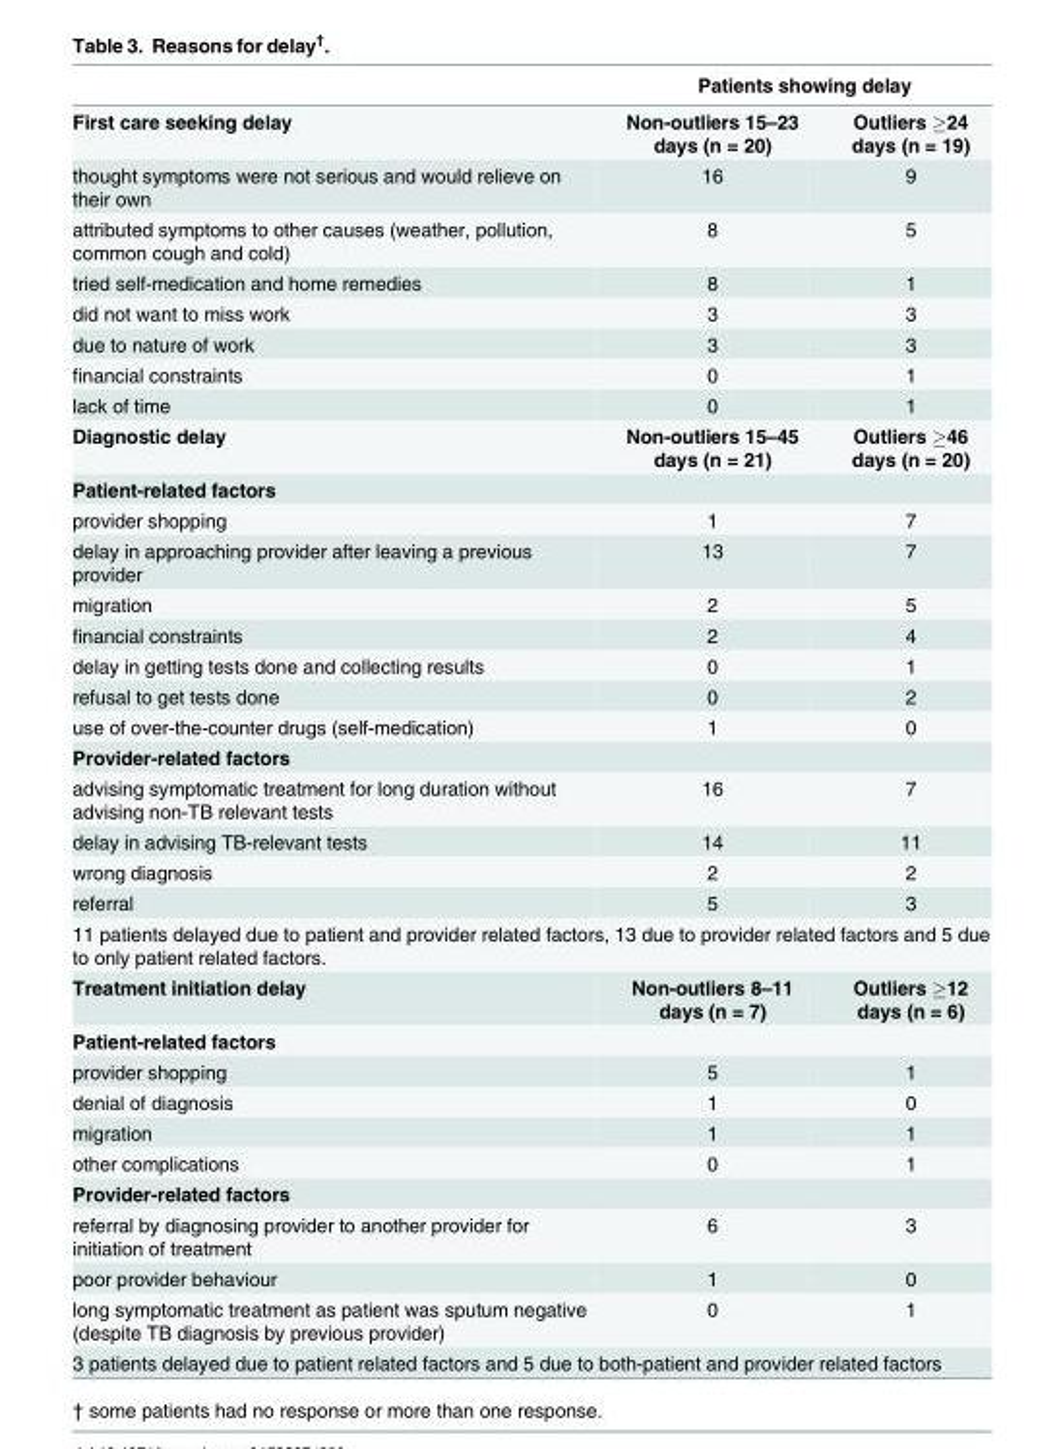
<table><thead><tr><td rowspan="2">First care seeking delay</td><td colspan="2">Patients showing delay</td></tr><tr><td>Non-outliers 15–23 days (n = 20)</td><td>Outliers ≥24 days (n = 19)</td></tr></thead><tbody><tr><td>thought symptoms were not serious and would relieve on their own</td><td>16</td><td>9</td></tr><tr><td>attributed symptoms to other causes (weather, pollution, common cough and cold)</td><td>8</td><td>5</td></tr><tr><td>tried self-medication and home remedies</td><td>8</td><td>1</td></tr><tr><td>did not want to miss work</td><td>3</td><td>3</td></tr><tr><td>due to nature of work</td><td>3</td><td>3</td></tr><tr><td>financial constraints</td><td>0</td><td>1</td></tr><tr><td>lack of time</td><td>0</td><td>1</td></tr><tr><td>Diagnostic delay</td><td>Non-outliers 15–45 days (n = 21)</td><td>Outliers ≥46 days (n = 20)</td></tr><tr><td colspan="3">Patient-related factors</td></tr><tr><td>provider shopping</td><td>1</td><td>7</td></tr><tr><td>delay in approaching provider after leaving a previous provider</td><td>13</td><td>7</td></tr><tr><td>migration</td><td>2</td><td>5</td></tr><tr><td>financial constraints</td><td>2</td><td>4</td></tr><tr><td>delay in getting tests done and collecting results</td><td>0</td><td>1</td></tr><tr><td>refusal to get tests done</td><td>0</td><td>2</td></tr><tr><td>use of over-the-counter drugs (self-medication)</td><td>1</td><td>0</td></tr><tr><td colspan="3">Provider-related factors</td></tr><tr><td>advising symptomatic treatment for long duration without advising non-TB relevant tests</td><td>16</td><td>7</td></tr><tr><td>delay in advising TB-relevant tests</td><td>14</td><td>11</td></tr><tr><td>wrong diagnosis</td><td>2</td><td>2</td></tr><tr><td>referral</td><td>5</td><td>3</td></tr><tr><td colspan="3">11 patients delayed due to patient and provider related factors, 13 due to provider related factors and 5 due to only patient related factors.</td></tr><tr><td>Treatment initiation delay</td><td>Non-outliers 8–11 days (n = 7)</td><td>Outliers ≥12 days (n = 6)</td></tr><tr><td colspan="3">Patient-related factors</td></tr><tr><td>provider shopping</td><td>5</td><td>1</td></tr><tr><td>denial of diagnosis</td><td>1</td><td>0</td></tr><tr><td>migration</td><td>1</td><td>1</td></tr><tr><td>other complications</td><td>0</td><td>1</td></tr><tr><td colspan="3">Provider-related factors</td></tr><tr><td>referral by diagnosing provider to another provider for initiation of treatment</td><td>6</td><td>3</td></tr><tr><td>poor provider behaviour</td><td>1</td><td>0</td></tr><tr><td>long symptomatic treatment as patient was sputum negative (despite TB diagnosis by previous provider)</td><td>0</td><td>1</td></tr><tr><td colspan="3">3 patients delayed due to patient related factors and 5 due to both-patient and provider related factors</td></tr></tbody></table>